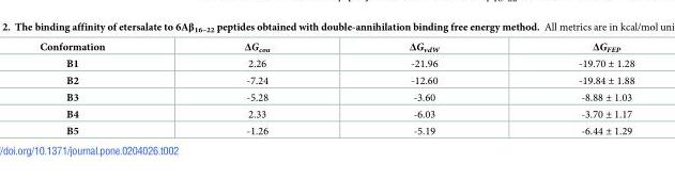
<table><thead><tr><td>Conformation</td><td>ΔG<sub>cou</sub></td><td>ΔG<sub>vdW</sub></td><td>ΔG<sub>FEP</sub></td></tr></thead><tbody><tr><td>B1</td><td>2.26</td><td>-21.96</td><td>-19.70 ± 1.28</td></tr><tr><td>B2</td><td>-7.24</td><td>-12.60</td><td>-19.84 ± 1.88</td></tr><tr><td>B3</td><td>-5.28</td><td>-3.60</td><td>-8.88 ± 1.03</td></tr><tr><td>B4</td><td>2.33</td><td>-6.03</td><td>-3.70 ± 1.17</td></tr><tr><td>B5</td><td>-1.26</td><td>-5.19</td><td>-6.44 ± 1.29</td></tr></tbody></table>